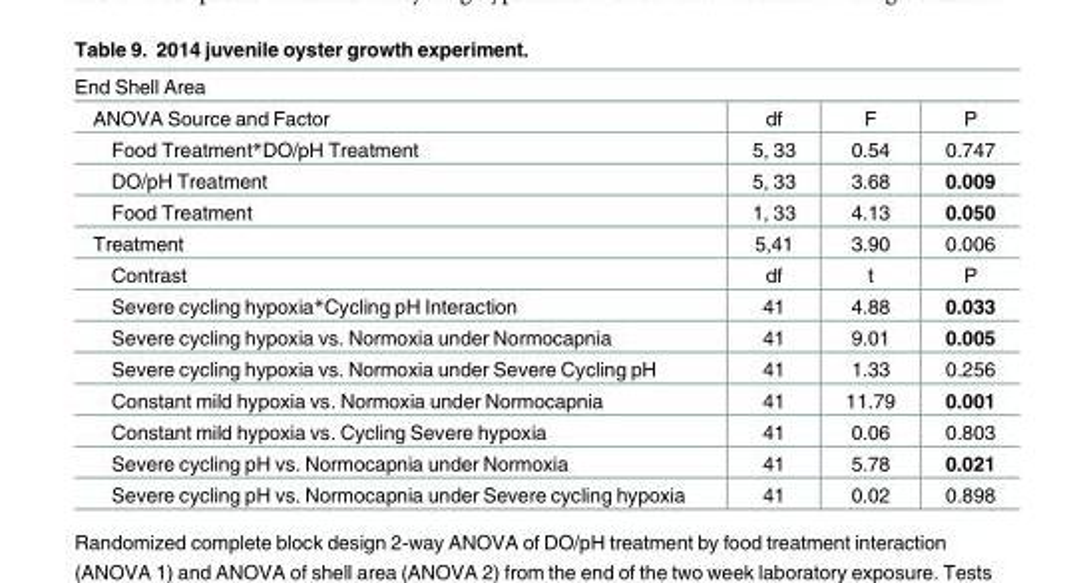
<table><tbody><tr><td colspan="4">End Shell Area</td></tr><tr><td>ANOVA Source and Factor</td><td>df</td><td>F</td><td>P</td></tr><tr><td>Food Treatment*DO/pH Treatment</td><td>5, 33</td><td>0.54</td><td>0.747</td></tr><tr><td>DO/pH Treatment</td><td>5, 33</td><td>3.68</td><td>0.009</td></tr><tr><td>Food Treatment</td><td>1, 33</td><td>4.13</td><td>0.050</td></tr><tr><td>Treatment</td><td>5,41</td><td>3.90</td><td>0.006</td></tr><tr><td>Contrast</td><td>df</td><td>t</td><td>P</td></tr><tr><td>Severe cycling hypoxia*Cycling pH Interaction</td><td>41</td><td>4.88</td><td>0.033</td></tr><tr><td>Severe cycling hypoxia vs. Normoxia under Normocapnia</td><td>41</td><td>9.01</td><td>0.005</td></tr><tr><td>Severe cycling hypoxia vs. Normoxia under Severe Cycling pH</td><td>41</td><td>1.33</td><td>0.256</td></tr><tr><td>Constant mild hypoxia vs. Normoxia under Normocapnia</td><td>41</td><td>11.79</td><td>0.001</td></tr><tr><td>Constant mild hypoxia vs. Cycling Severe hypoxia</td><td>41</td><td>0.06</td><td>0.803</td></tr><tr><td>Severe cycling pH vs. Normocapnia under Normoxia</td><td>41</td><td>5.78</td><td>0.021</td></tr><tr><td>Severe cycling pH vs. Normocapnia under Severe cycling hypoxia</td><td>41</td><td>0.02</td><td>0.898</td></tr></tbody></table>